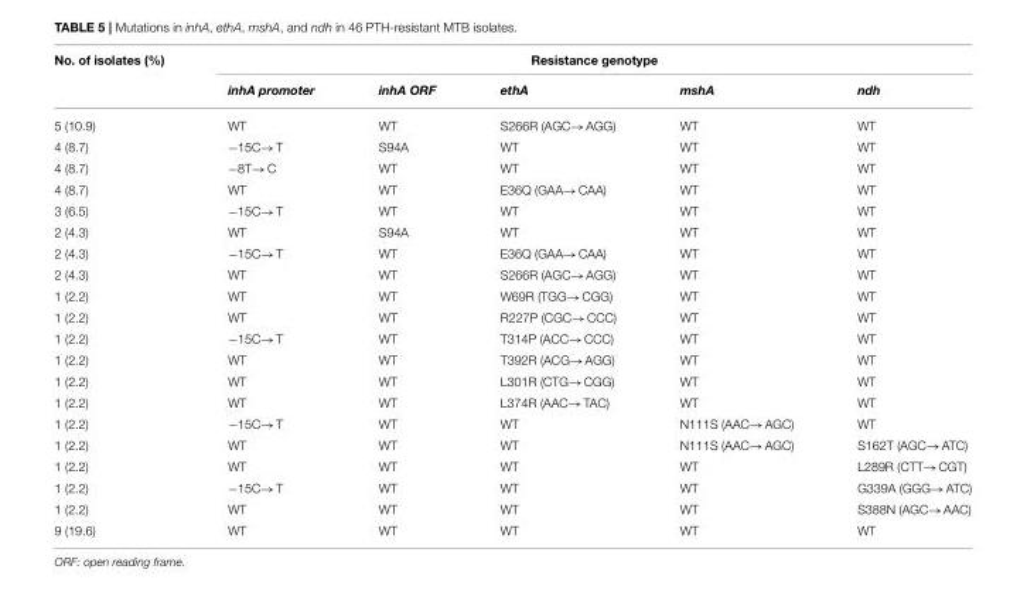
<table><thead><tr><td rowspan="2">No. of isolates (%)</td><td colspan="5">Resistance genotype</td></tr><tr><td>inhA promoter</td><td>inhA ORF</td><td>ethA</td><td>mshA</td><td>ndh</td></tr></thead><tbody><tr><td>5 (10.9)</td><td>WT</td><td>WT</td><td>S266R (AGC→AGG)</td><td>WT</td><td>WT</td></tr><tr><td>4 (8.7)</td><td>−15C→T</td><td>S94A</td><td>WT</td><td>WT</td><td>WT</td></tr><tr><td>4 (8.7)</td><td>−8T→C</td><td>WT</td><td>WT</td><td>WT</td><td>WT</td></tr><tr><td>4 (8.7)</td><td>WT</td><td>WT</td><td>E36Q (GAA→CAA)</td><td>WT</td><td>WT</td></tr><tr><td>3 (6.5)</td><td>−15C→T</td><td>WT</td><td>WT</td><td>WT</td><td>WT</td></tr><tr><td>2 (4.3)</td><td>WT</td><td>S94A</td><td>WT</td><td>WT</td><td>WT</td></tr><tr><td>2 (4.3)</td><td>−15C→T</td><td>WT</td><td>E36Q (GAA→CAA)</td><td>WT</td><td>WT</td></tr><tr><td>2 (4.3)</td><td>WT</td><td>WT</td><td>S266R (AGC→AGG)</td><td>WT</td><td>WT</td></tr><tr><td>1 (2.2)</td><td>WT</td><td>WT</td><td>W69R (TGG→CGG)</td><td>WT</td><td>WT</td></tr><tr><td>1 (2.2)</td><td>WT</td><td>WT</td><td>R227P (CGC→CCC)</td><td>WT</td><td>WT</td></tr><tr><td>1 (2.2)</td><td>−15C→T</td><td>WT</td><td>T314P (ACC→CCC)</td><td>WT</td><td>WT</td></tr><tr><td>1 (2.2)</td><td>WT</td><td>WT</td><td>T392R (ACG→AGG)</td><td>WT</td><td>WT</td></tr><tr><td>1 (2.2)</td><td>WT</td><td>WT</td><td>L301R (CTG→CGG)</td><td>WT</td><td>WT</td></tr><tr><td>1 (2.2)</td><td>WT</td><td>WT</td><td>L374R (AAC→TAC)</td><td>WT</td><td>WT</td></tr><tr><td>1 (2.2)</td><td>−15C→T</td><td>WT</td><td>WT</td><td>N111S (AAC→AGC)</td><td>WT</td></tr><tr><td>1 (2.2)</td><td>WT</td><td>WT</td><td>WT</td><td>N111S (AAC→AGC)</td><td>S162T (AGC→ATC)</td></tr><tr><td>1 (2.2)</td><td>WT</td><td>WT</td><td>WT</td><td>WT</td><td>L289R (CTT→CGT)</td></tr><tr><td>1 (2.2)</td><td>−15C→T</td><td>WT</td><td>WT</td><td>WT</td><td>G339A (GGG→ATC)</td></tr><tr><td>1 (2.2)</td><td>WT</td><td>WT</td><td>WT</td><td>WT</td><td>S388N (AGC→AAC)</td></tr><tr><td>9 (19.6)</td><td>WT</td><td>WT</td><td>WT</td><td>WT</td><td>WT</td></tr></tbody></table>